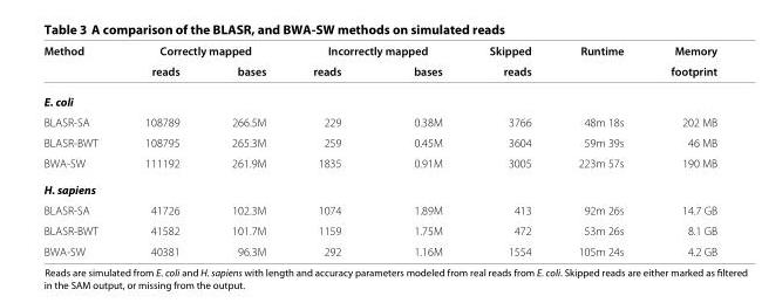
<table><thead><tr><td rowspan="2">Method</td><td colspan="2">Correctly mapped</td><td colspan="2">Incorrectly mapped</td><td rowspan="2">Skipped reads</td><td rowspan="2">Runtime</td><td rowspan="2">Memory footprint</td></tr><tr><td>reads</td><td>bases</td><td>reads</td><td>bases</td></tr></thead><tbody><tr><td colspan="8">E. coli</td></tr><tr><td>BLASR-SA</td><td>108789</td><td>266.5M</td><td>229</td><td>0.38M</td><td>3766</td><td>48m 18s</td><td>202 MB</td></tr><tr><td>BLASR-BWT</td><td>108795</td><td>265.3M</td><td>259</td><td>0.45M</td><td>3604</td><td>59m 39s</td><td>46 MB</td></tr><tr><td>BWA-SW</td><td>111192</td><td>261.9M</td><td>1835</td><td>0.91M</td><td>3005</td><td>223m 57s</td><td>190 MB</td></tr><tr><td colspan="8">H. sapiens</td></tr><tr><td>BLASR-SA</td><td>41726</td><td>102.3M</td><td>1074</td><td>1.89M</td><td>413</td><td>92m 26s</td><td>14.7 GB</td></tr><tr><td>BLASR-BWT</td><td>41582</td><td>101.7M</td><td>1159</td><td>1.75M</td><td>472</td><td>53m 26s</td><td>8.1 GB</td></tr><tr><td>BWA-SW</td><td>40381</td><td>96.3M</td><td>292</td><td>1.16M</td><td>1554</td><td>105m 24s</td><td>4.2 GB</td></tr></tbody></table>